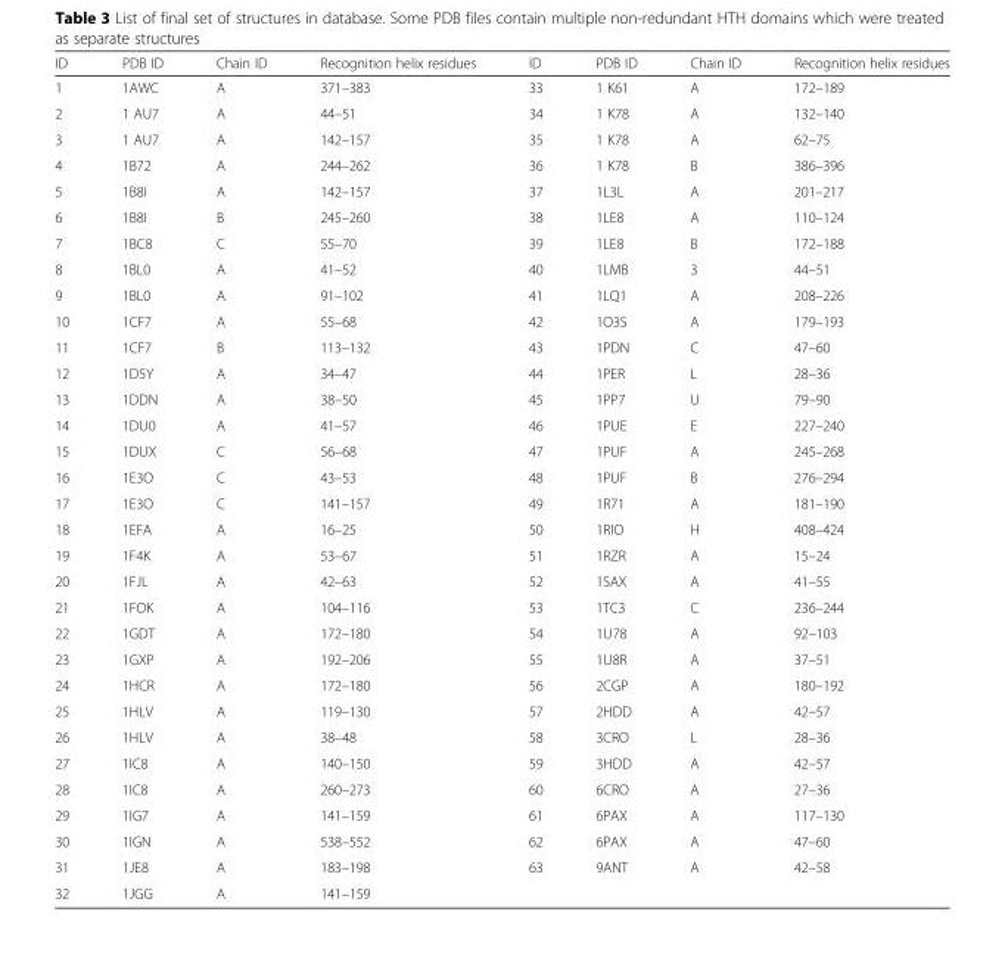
<table><thead><tr><td>ID</td><td>PDB ID</td><td>Chain ID</td><td>Recognition helix residues</td><td>ID</td><td>PDB ID</td><td>Chain ID</td><td>Recognition helix residues</td></tr></thead><tbody><tr><td>1</td><td>1AWC</td><td>A</td><td>371–383</td><td>33</td><td>1 K61</td><td>A</td><td>172–189</td></tr><tr><td>2</td><td>1 AU7</td><td>A</td><td>44–51</td><td>34</td><td>1 K78</td><td>A</td><td>132–140</td></tr><tr><td>3</td><td>1 AU7</td><td>A</td><td>142–157</td><td>35</td><td>1 K78</td><td>A</td><td>62–75</td></tr><tr><td>4</td><td>1B72</td><td>A</td><td>244–262</td><td>36</td><td>1 K78</td><td>B</td><td>386–396</td></tr><tr><td>5</td><td>1B8I</td><td>A</td><td>142–157</td><td>37</td><td>1L3L</td><td>A</td><td>201–217</td></tr><tr><td>6</td><td>1B8I</td><td>B</td><td>245–260</td><td>38</td><td>1LE8</td><td>A</td><td>110–124</td></tr><tr><td>7</td><td>1BC8</td><td>C</td><td>55–70</td><td>39</td><td>1LE8</td><td>B</td><td>172–188</td></tr><tr><td>8</td><td>1BL0</td><td>A</td><td>41–52</td><td>40</td><td>1LMB</td><td>3</td><td>44–51</td></tr><tr><td>9</td><td>1BL0</td><td>A</td><td>91–102</td><td>41</td><td>1LQ1</td><td>A</td><td>208–226</td></tr><tr><td>10</td><td>1CF7</td><td>A</td><td>55–68</td><td>42</td><td>1O3S</td><td>A</td><td>179–193</td></tr><tr><td>11</td><td>1CF7</td><td>B</td><td>113–132</td><td>43</td><td>1PDN</td><td>C</td><td>47–60</td></tr><tr><td>12</td><td>1D5Y</td><td>A</td><td>34–47</td><td>44</td><td>1PER</td><td>L</td><td>28–36</td></tr><tr><td>13</td><td>1DDN</td><td>A</td><td>38–50</td><td>45</td><td>1PP7</td><td>U</td><td>79–90</td></tr><tr><td>14</td><td>1DU0</td><td>A</td><td>41–57</td><td>46</td><td>1PUE</td><td>E</td><td>227–240</td></tr><tr><td>15</td><td>1DUX</td><td>C</td><td>56–68</td><td>47</td><td>1PUF</td><td>A</td><td>245–268</td></tr><tr><td>16</td><td>1E3O</td><td>C</td><td>43–53</td><td>48</td><td>1PUF</td><td>B</td><td>276–294</td></tr><tr><td>17</td><td>1E3O</td><td>C</td><td>141–157</td><td>49</td><td>1R71</td><td>A</td><td>181–190</td></tr><tr><td>18</td><td>1EFA</td><td>A</td><td>16–25</td><td>50</td><td>1RIO</td><td>H</td><td>408–424</td></tr><tr><td>19</td><td>1F4K</td><td>A</td><td>53–67</td><td>51</td><td>1RZR</td><td>A</td><td>15–24</td></tr><tr><td>20</td><td>1FJL</td><td>A</td><td>42–63</td><td>52</td><td>1SAX</td><td>A</td><td>41–55</td></tr><tr><td>21</td><td>1FOK</td><td>A</td><td>104–116</td><td>53</td><td>1TC3</td><td>C</td><td>236–244</td></tr><tr><td>22</td><td>1GDT</td><td>A</td><td>172–180</td><td>54</td><td>1U78</td><td>A</td><td>92–103</td></tr><tr><td>23</td><td>1GXP</td><td>A</td><td>192–206</td><td>55</td><td>1U8R</td><td>A</td><td>37–51</td></tr><tr><td>24</td><td>1HCR</td><td>A</td><td>172–180</td><td>56</td><td>2CGP</td><td>A</td><td>180–192</td></tr><tr><td>25</td><td>1HLV</td><td>A</td><td>119–130</td><td>57</td><td>2HDD</td><td>A</td><td>42–57</td></tr><tr><td>26</td><td>1HLV</td><td>A</td><td>38–48</td><td>58</td><td>3CRO</td><td>L</td><td>28–36</td></tr><tr><td>27</td><td>1IC8</td><td>A</td><td>140–150</td><td>59</td><td>3HDD</td><td>A</td><td>42–57</td></tr><tr><td>28</td><td>1IC8</td><td>A</td><td>260–273</td><td>60</td><td>6CRO</td><td>A</td><td>27–36</td></tr><tr><td>29</td><td>1IG7</td><td>A</td><td>141–159</td><td>61</td><td>6PAX</td><td>A</td><td>117–130</td></tr><tr><td>30</td><td>1IGN</td><td>A</td><td>538–552</td><td>62</td><td>6PAX</td><td>A</td><td>47–60</td></tr><tr><td>31</td><td>1JE8</td><td>A</td><td>183–198</td><td>63</td><td>9ANT</td><td>A</td><td>42–58</td></tr><tr><td>32</td><td>1JGG</td><td>A</td><td>141–159</td><td></td><td></td><td></td><td></td></tr></tbody></table>